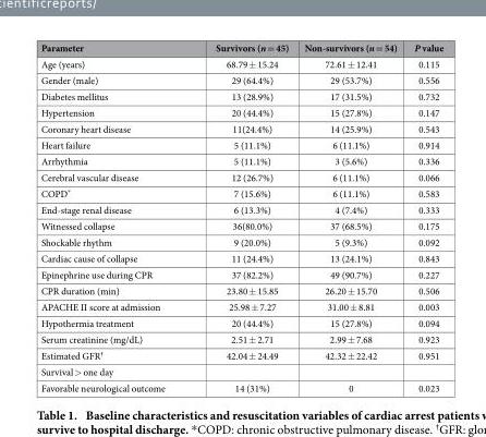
<table><thead><tr><td>Parameter</td><td>Survivors (n = 45)</td><td>Non-survivors (n = 54)</td><td>P value</td></tr></thead><tbody><tr><td>Age (years)</td><td>68.79 ± 15.24</td><td>72.61 ± 12.41</td><td>0.115</td></tr><tr><td>Gender (male)</td><td>29 (64.4%)</td><td>29 (53.7%)</td><td>0.556</td></tr><tr><td>Diabetes mellitus</td><td>13 (28.9%)</td><td>17 (31.5%)</td><td>0.732</td></tr><tr><td>Hypertension</td><td>20 (44.4%)</td><td>15 (27.8%)</td><td>0.147</td></tr><tr><td>Coronary heart disease</td><td>11(24.4%)</td><td>14 (25.9%)</td><td>0.543</td></tr><tr><td>Heart failure</td><td>5 (11.1%)</td><td>6 (11.1%)</td><td>0.914</td></tr><tr><td>Arrhythmia</td><td>5 (11.1%)</td><td>3 (5.6%)</td><td>0.336</td></tr><tr><td>Cerebral vascular disease</td><td>12 (26.7%)</td><td>6 (11.1%)</td><td>0.066</td></tr><tr><td>COPD*</td><td>7 (15.6%)</td><td>6 (11.1%)</td><td>0.583</td></tr><tr><td>End-stage renal disease</td><td>6 (13.3%)</td><td>4 (7.4%)</td><td>0.333</td></tr><tr><td>Witnessed collapse</td><td>36(80.0%)</td><td>37 (68.5%)</td><td>0.175</td></tr><tr><td>Shockable rhythm</td><td>9 (20.0%)</td><td>5 (9.3%)</td><td>0.092</td></tr><tr><td>Cardiac cause of collapse</td><td>11 (24.4%)</td><td>13 (24.1%)</td><td>0.843</td></tr><tr><td>Epinephrine use during CPR</td><td>37 (82.2%)</td><td>49 (90.7%)</td><td>0.227</td></tr><tr><td>CPR duration (min)</td><td>23.80 ± 15.85</td><td>26.20 ± 15.70</td><td>0.506</td></tr><tr><td>APACHE II score at admission</td><td>25.98 ± 7.27</td><td>31.00 ± 8.81</td><td>0.003</td></tr><tr><td>Hypothermia treatment</td><td>20 (44.4%)</td><td>15 (27.8%)</td><td>0.094</td></tr><tr><td>Serum creatinine (mg/dL)</td><td>2.51 ± 2.71</td><td>2.99 ± 7.68</td><td>0.923</td></tr><tr><td>Estimated GFR†</td><td>42.04 ± 24.49</td><td>42.32 ± 22.42</td><td>0.951</td></tr><tr><td colspan="4">Survival &gt; one day</td></tr><tr><td>Favorable neurological outcome</td><td>14 (31%)</td><td>0</td><td>0.023</td></tr></tbody></table>